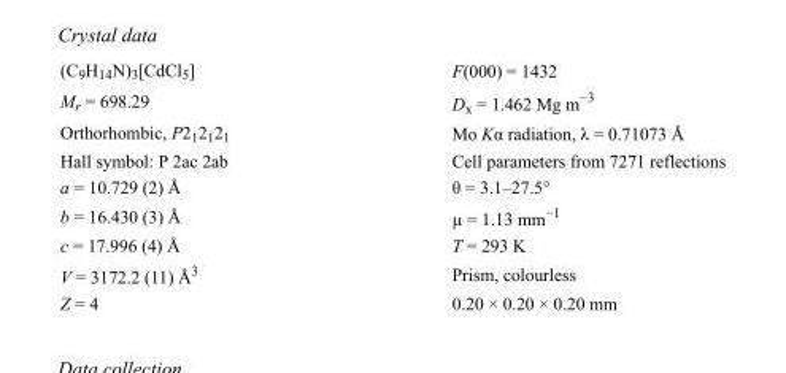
<table><tbody><tr><td>(C<sub>9</sub>H<sub>14</sub>N)<sub>3</sub>[CdCl<sub>5</sub>]</td><td>F(000) = 1432</td></tr><tr><td>M<sub>r</sub> = 698.29</td><td>D<sub>x</sub> = 1.462 Mg m<sup>−3</sup></td></tr><tr><td>Orthorhombic, P2<sub>1</sub>2<sub>1</sub>2<sub>1</sub></td><td>Mo Kα radiation, λ = 0.71073 Å</td></tr><tr><td>Hall symbol: P 2ac 2ab</td><td>Cell parameters from 7271 reflections</td></tr><tr><td>a = 10.729 (2) Å</td><td>θ = 3.1–27.5°</td></tr><tr><td>b = 16.430 (3) Å</td><td>µ = 1.13 mm<sup>−1</sup></td></tr><tr><td>c = 17.996 (4) Å</td><td>T = 293 K</td></tr><tr><td>V = 3172.2 (11) Å<sup>3</sup></td><td>Prism, colourless</td></tr><tr><td>Z = 4</td><td>0.20 × 0.20 × 0.20 mm</td></tr></tbody></table>